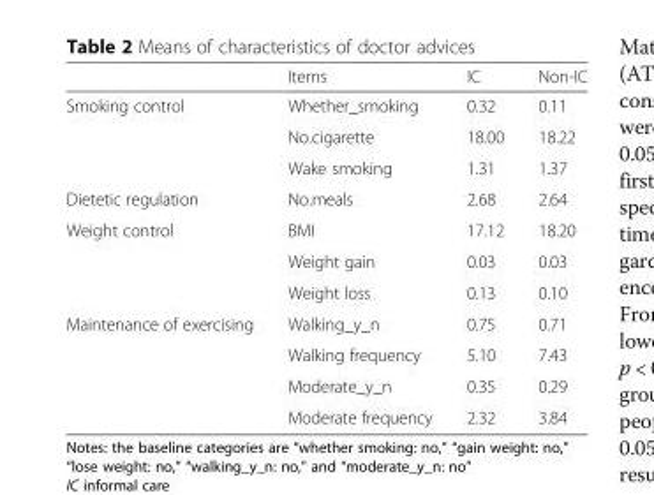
<table><thead><tr><td></td><td>Items</td><td>IC</td><td>Non-IC</td></tr></thead><tbody><tr><td rowspan="3">Smoking control</td><td>Whether_smoking</td><td>0.32</td><td>0.11</td></tr><tr><td>No.cigarette</td><td>18.00</td><td>18.22</td></tr><tr><td>Wake smoking</td><td>1.31</td><td>1.37</td></tr><tr><td>Dietetic regulation</td><td>No.meals</td><td>2.68</td><td>2.64</td></tr><tr><td rowspan="3">Weight control</td><td>BMI</td><td>17.12</td><td>18.20</td></tr><tr><td>Weight gain</td><td>0.03</td><td>0.03</td></tr><tr><td>Weight loss</td><td>0.13</td><td>0.10</td></tr><tr><td rowspan="4">Maintenance of exercising</td><td>Walking_y_n</td><td>0.75</td><td>0.71</td></tr><tr><td>Walking frequency</td><td>5.10</td><td>7.43</td></tr><tr><td>Moderate_y_n</td><td>0.35</td><td>0.29</td></tr><tr><td>Moderate frequency</td><td>2.32</td><td>3.84</td></tr></tbody></table>